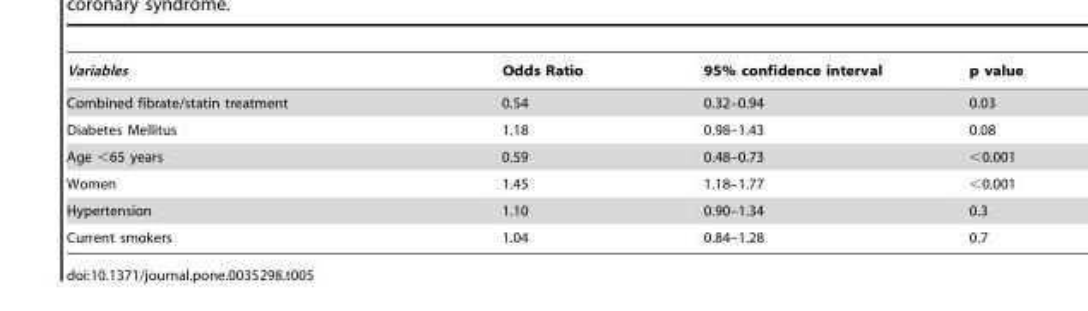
<table><thead><tr><td>Variables</td><td>Odds Ratio</td><td>95% confidence interval</td><td>p value</td></tr></thead><tbody><tr><td>Combined fibrate/statin treatment</td><td>0.54</td><td>0.32–0.94</td><td>0.03</td></tr><tr><td>Diabetes Mellitus</td><td>1.18</td><td>0.98–1.43</td><td>0.08</td></tr><tr><td>Age &lt;65 years</td><td>0.59</td><td>0.48–0.73</td><td>&lt;0.001</td></tr><tr><td>Women</td><td>1.45</td><td>1.18–1.77</td><td>&lt;0.001</td></tr><tr><td>Hypertension</td><td>1.10</td><td>0.90–1.34</td><td>0.3</td></tr><tr><td>Current smokers</td><td>1.04</td><td>0.84–1.28</td><td>0.7</td></tr></tbody></table>